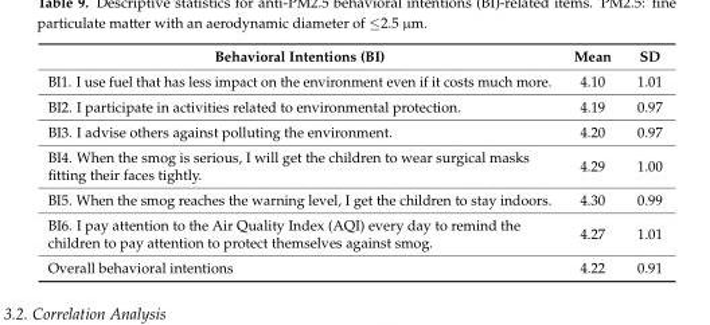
<table><thead><tr><td>Behavioral Intentions (BI)</td><td>Mean</td><td>SD</td></tr></thead><tbody><tr><td>BI1. I use fuel that has less impact on the environment even if it costs much more.</td><td>4.10</td><td>1.01</td></tr><tr><td>BI2. I participate in activities related to environmental protection.</td><td>4.19</td><td>0.97</td></tr><tr><td>BI3. I advise others against polluting the environment.</td><td>4.20</td><td>0.97</td></tr><tr><td>BI4. When the smog is serious, I will get the children to wear surgical masks fitting their faces tightly.</td><td>4.29</td><td>1.00</td></tr><tr><td>BI5. When the smog reaches the warning level, I get the children to stay indoors.</td><td>4.30</td><td>0.99</td></tr><tr><td>BI6. I pay attention to the Air Quality Index (AQI) every day to remind the children to pay attention to protect themselves against smog.</td><td>4.27</td><td>1.01</td></tr><tr><td>Overall behavioral intentions</td><td>4.22</td><td>0.91</td></tr></tbody></table>